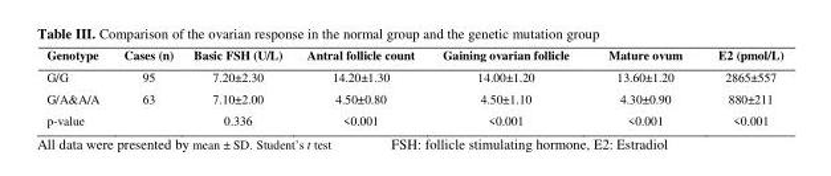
<table><thead><tr><td>Genotype</td><td>Cases (n)</td><td>Basic FSH (U/L)</td><td>Antral follicle count</td><td>Gaining ovarian follicle</td><td>Mature ovum</td><td>E2 (pmol/L)</td></tr></thead><tbody><tr><td>G/G</td><td>95</td><td>7.20±2.30</td><td>14.20±1.30</td><td>14.00±1.20</td><td>13.60±1.20</td><td>2865±557</td></tr><tr><td>G/A&amp;A/A</td><td>63</td><td>7.10±2.00</td><td>4.50±0.80</td><td>4.50±1.10</td><td>4.30±0.90</td><td>880±211</td></tr><tr><td>p-value</td><td></td><td>0.336</td><td>&lt;0.001</td><td>&lt;0.001</td><td>&lt;0.001</td><td>&lt;0.001</td></tr></tbody></table>